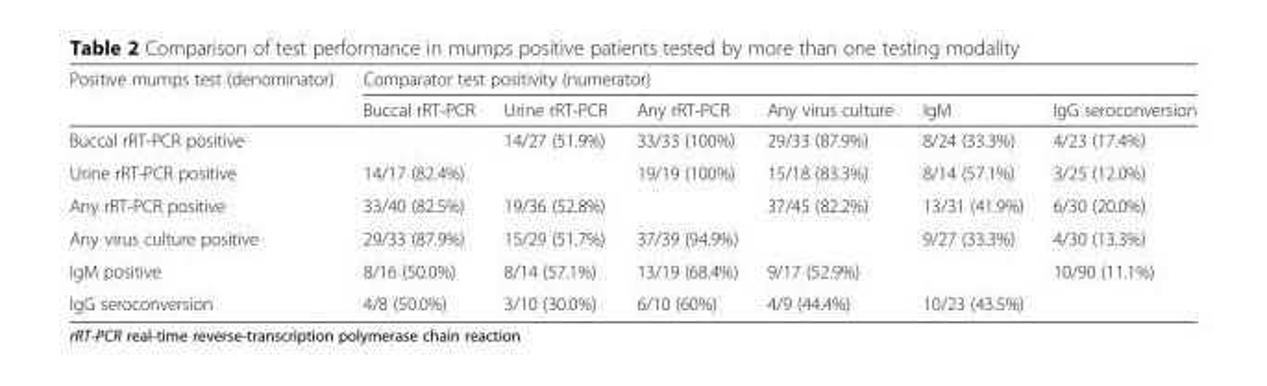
<table><thead><tr><td rowspan="2">Positive mumps test (denominator)</td><td colspan="6">Comparator test positivity (numerator)</td></tr><tr><td>Buccal rRT-PCR</td><td>Urine rRT-PCR</td><td>Any rRT-PCR</td><td>Any virus culture</td><td>IgM</td><td>IgG seroconversion</td></tr></thead><tbody><tr><td>Buccal rRT-PCR positive</td><td></td><td>14/27 (51.9%)</td><td>33/33 (100%)</td><td>29/33 (87.9%)</td><td>8/24 (33.3%)</td><td>4/23 (17.4%)</td></tr><tr><td>Urine rRT-PCR positive</td><td>14/17 (82.4%)</td><td></td><td>19/19 (100%)</td><td>15/18 (83.3%)</td><td>8/14 (57.1%)</td><td>3/25 (12.0%)</td></tr><tr><td>Any rRT-PCR positive</td><td>33/40 (82.5%)</td><td>19/36 (52.8%)</td><td></td><td>37/45 (82.2%)</td><td>13/31 (41.9%)</td><td>6/30 (20.0%)</td></tr><tr><td>Any virus culture positive</td><td>29/33 (87.9%)</td><td>15/29 (51.7%)</td><td>37/39 (94.9%)</td><td></td><td>9/27 (33.3%)</td><td>4/30 (13.3%)</td></tr><tr><td>IgM positive</td><td>8/16 (50.0%)</td><td>8/14 (57.1%)</td><td>13/19 (68.4%)</td><td>9/17 (52.9%)</td><td></td><td>10/90 (11.1%)</td></tr><tr><td>IgG seroconversion</td><td>4/8 (50.0%)</td><td>3/10 (30.0%)</td><td>6/10 (60%)</td><td>4/9 (44.4%)</td><td>10/23 (43.5%)</td><td></td></tr></tbody></table>